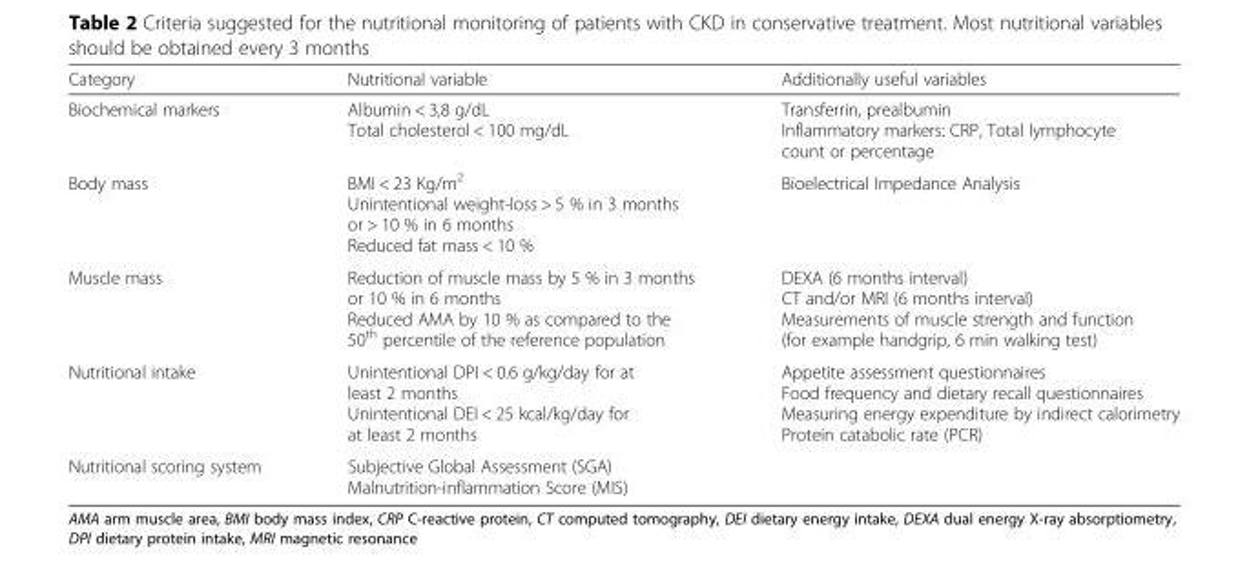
<table><thead><tr><td>Category</td><td>Nutritional variable</td><td>Additionally useful variables</td></tr></thead><tbody><tr><td>Biochemical markers</td><td>Albumin &lt; 3,8 g/dL Total cholesterol &lt; 100 mg/dL</td><td>Transferrin, prealbumin Inflammatory markers: CRP, Total lymphocyte count or percentage</td></tr><tr><td>Body mass</td><td>BMI &lt; 23 Kg/m<sup>2</sup> Unintentional weight-loss &gt; 5 % in 3 months or &gt; 10 % in 6 months Reduced fat mass &lt; 10 %</td><td>Bioelectrical Impedance Analysis</td></tr><tr><td>Muscle mass</td><td>Reduction of muscle mass by 5 % in 3 months or 10 % in 6 months Reduced AMA by 10 % as compared to the 50<sup>th</sup> percentile of the reference population</td><td>DEXA (6 months interval) CT and/or MRI (6 months interval) Measurements of muscle strength and function (for example handgrip, 6 min walking test)</td></tr><tr><td>Nutritional intake</td><td>Unintentional DPI &lt; 0.6 g/kg/day for at least 2 months Unintentional DEI &lt; 25 kcal/kg/day for at least 2 months</td><td>Appetite assessment questionnaires Food frequency and dietary recall questionnaires Measuring energy expenditure by indirect calorimetry Protein catabolic rate (PCR)</td></tr><tr><td>Nutritional scoring system</td><td>Subjective Global Assessment (SGA) Malnutrition-inflammation Score (MIS)</td><td></td></tr></tbody></table>